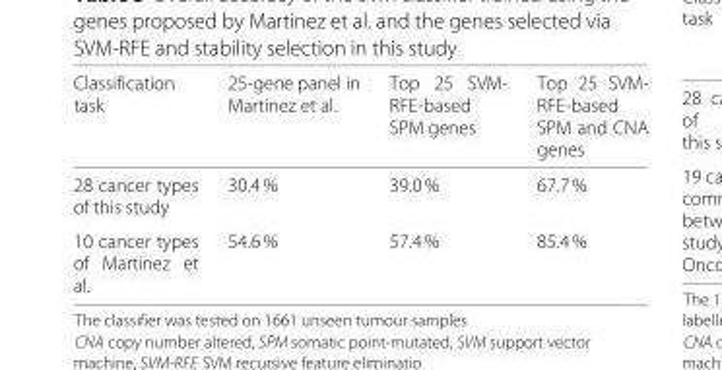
<table><thead><tr><td>Classification task</td><td>25-gene panel in Martinez et al.</td><td>Top 25 SVM- RFE-based SPM genes</td><td>Top 25 SVM- RFE-based SPM and CNA genes</td></tr></thead><tbody><tr><td>28 cancer types of this study</td><td>30.4 %</td><td>39.0 %</td><td>67.7 %</td></tr><tr><td>10 cancer types of Martinez et al.</td><td>54.6 %</td><td>57.4 %</td><td>85.4 %</td></tr></tbody></table>